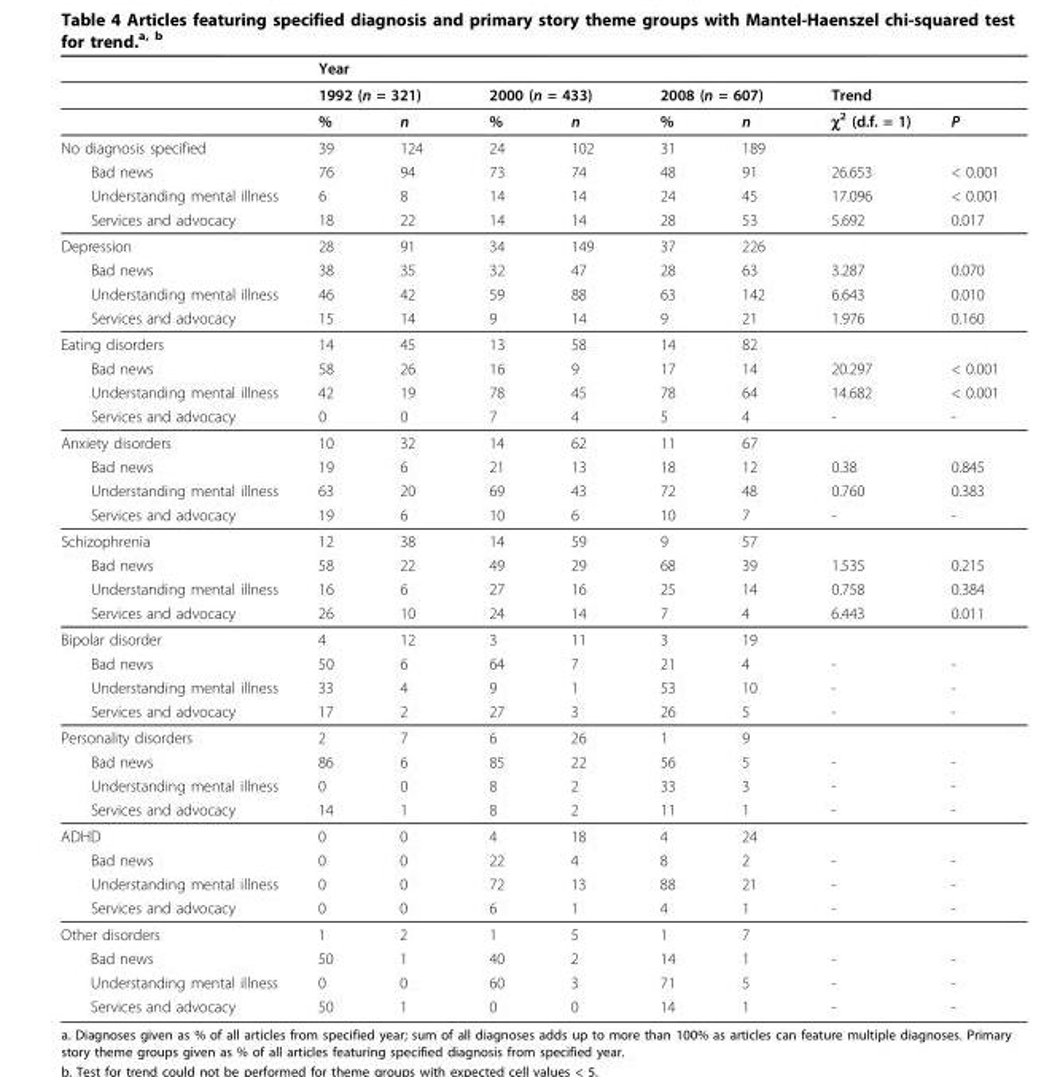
<table><thead><tr><td rowspan="3"></td><td colspan="6">Year</td><td></td><td></td></tr><tr><td colspan="2">1992 (n = 321)</td><td colspan="2">2000 (n = 433)</td><td colspan="2">2008 (n = 607)</td><td colspan="2">Trend</td></tr><tr><td>%</td><td>n</td><td>%</td><td>n</td><td>%</td><td>n</td><td>χ2 (d.f. = 1)</td><td>P</td></tr></thead><tbody><tr><td>No diagnosis specified</td><td>39</td><td>124</td><td>24</td><td>102</td><td>31</td><td>189</td><td></td><td></td></tr><tr><td>Bad news</td><td>76</td><td>94</td><td>73</td><td>74</td><td>48</td><td>91</td><td>26.653</td><td>&lt; 0.001</td></tr><tr><td>Understanding mental illness</td><td>6</td><td>8</td><td>14</td><td>14</td><td>24</td><td>45</td><td>17.096</td><td>&lt; 0.001</td></tr><tr><td>Services and advocacy</td><td>18</td><td>22</td><td>14</td><td>14</td><td>28</td><td>53</td><td>5.692</td><td>0.017</td></tr><tr><td>Depression</td><td>28</td><td>91</td><td>34</td><td>149</td><td>37</td><td>226</td><td></td><td></td></tr><tr><td>Bad news</td><td>38</td><td>35</td><td>32</td><td>47</td><td>28</td><td>63</td><td>3.287</td><td>0.070</td></tr><tr><td>Understanding mental illness</td><td>46</td><td>42</td><td>59</td><td>88</td><td>63</td><td>142</td><td>6.643</td><td>0.010</td></tr><tr><td>Services and advocacy</td><td>15</td><td>14</td><td>9</td><td>14</td><td>9</td><td>21</td><td>1.976</td><td>0.160</td></tr><tr><td>Eating disorders</td><td>14</td><td>45</td><td>13</td><td>58</td><td>14</td><td>82</td><td></td><td></td></tr><tr><td>Bad news</td><td>58</td><td>26</td><td>16</td><td>9</td><td>17</td><td>14</td><td>20.297</td><td>&lt; 0.001</td></tr><tr><td>Understanding mental illness</td><td>42</td><td>19</td><td>78</td><td>45</td><td>78</td><td>64</td><td>14.682</td><td>&lt; 0.001</td></tr><tr><td>Services and advocacy</td><td>0</td><td>0</td><td>7</td><td>4</td><td>5</td><td>4</td><td>-</td><td>-</td></tr><tr><td>Anxiety disorders</td><td>10</td><td>32</td><td>14</td><td>62</td><td>11</td><td>67</td><td></td><td></td></tr><tr><td>Bad news</td><td>19</td><td>6</td><td>21</td><td>13</td><td>18</td><td>12</td><td>0.38</td><td>0.845</td></tr><tr><td>Understanding mental illness</td><td>63</td><td>20</td><td>69</td><td>43</td><td>72</td><td>48</td><td>0.760</td><td>0.383</td></tr><tr><td>Services and advocacy</td><td>19</td><td>6</td><td>10</td><td>6</td><td>10</td><td>7</td><td>-</td><td>-</td></tr><tr><td>Schizophrenia</td><td>12</td><td>38</td><td>14</td><td>59</td><td>9</td><td>57</td><td></td><td></td></tr><tr><td>Bad news</td><td>58</td><td>22</td><td>49</td><td>29</td><td>68</td><td>39</td><td>1.535</td><td>0.215</td></tr><tr><td>Understanding mental illness</td><td>16</td><td>6</td><td>27</td><td>16</td><td>25</td><td>14</td><td>0.758</td><td>0.384</td></tr><tr><td>Services and advocacy</td><td>26</td><td>10</td><td>24</td><td>14</td><td>7</td><td>4</td><td>6.443</td><td>0.011</td></tr><tr><td>Bipolar disorder</td><td>4</td><td>12</td><td>3</td><td>11</td><td>3</td><td>19</td><td></td><td></td></tr><tr><td>Bad news</td><td>50</td><td>6</td><td>64</td><td>7</td><td>21</td><td>4</td><td>-</td><td>-</td></tr><tr><td>Understanding mental illness</td><td>33</td><td>4</td><td>9</td><td>1</td><td>53</td><td>10</td><td>-</td><td>-</td></tr><tr><td>Services and advocacy</td><td>17</td><td>2</td><td>27</td><td>3</td><td>26</td><td>5</td><td>-</td><td>-</td></tr><tr><td>Personality disorders</td><td>2</td><td>7</td><td>6</td><td>26</td><td>1</td><td>9</td><td></td><td></td></tr><tr><td>Bad news</td><td>86</td><td>6</td><td>85</td><td>22</td><td>56</td><td>5</td><td>-</td><td>-</td></tr><tr><td>Understanding mental illness</td><td>0</td><td>0</td><td>8</td><td>2</td><td>33</td><td>3</td><td>-</td><td>-</td></tr><tr><td>Services and advocacy</td><td>14</td><td>1</td><td>8</td><td>2</td><td>11</td><td>1</td><td>-</td><td>-</td></tr><tr><td>ADHD</td><td>0</td><td>0</td><td>4</td><td>18</td><td>4</td><td>24</td><td></td><td></td></tr><tr><td>Bad news</td><td>0</td><td>0</td><td>22</td><td>4</td><td>8</td><td>2</td><td>-</td><td>-</td></tr><tr><td>Understanding mental illness</td><td>0</td><td>0</td><td>72</td><td>13</td><td>88</td><td>21</td><td>-</td><td>-</td></tr><tr><td>Services and advocacy</td><td>0</td><td>0</td><td>6</td><td>1</td><td>4</td><td>1</td><td>-</td><td>-</td></tr><tr><td>Other disorders</td><td>1</td><td>2</td><td>1</td><td>5</td><td>1</td><td>7</td><td></td><td></td></tr><tr><td>Bad news</td><td>50</td><td>1</td><td>40</td><td>2</td><td>14</td><td>1</td><td>-</td><td>-</td></tr><tr><td>Understanding mental illness</td><td>0</td><td>0</td><td>60</td><td>3</td><td>71</td><td>5</td><td>-</td><td>-</td></tr><tr><td>Services and advocacy</td><td>50</td><td>1</td><td>0</td><td>0</td><td>14</td><td>1</td><td>-</td><td>-</td></tr></tbody></table>